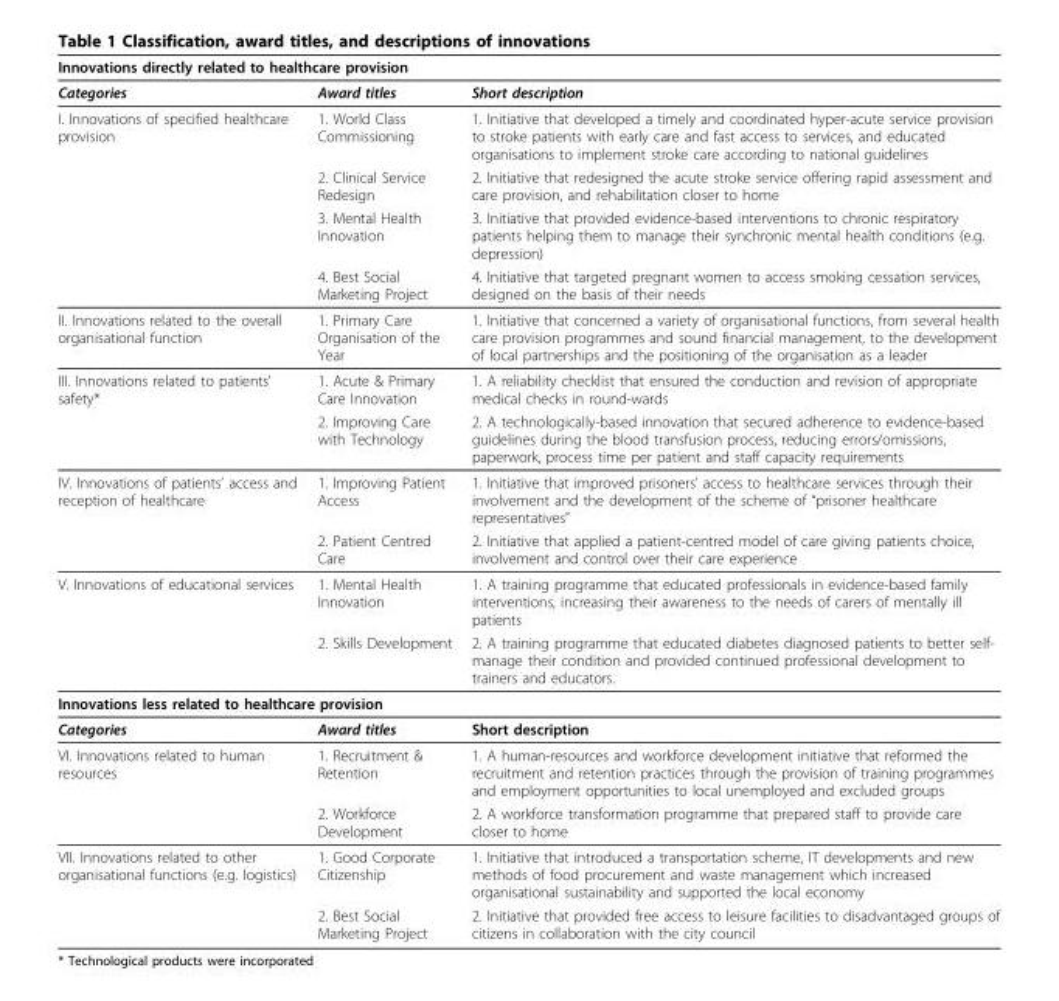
<table><thead><tr><td colspan="3">Innovations directly related to healthcare provision</td></tr><tr><td>Categories</td><td>Award titles</td><td>Short description</td></tr></thead><tbody><tr><td rowspan="4">I. Innovations of specified healthcare provision</td><td>1. World Class Commissioning</td><td>1. Initiative that developed a timely and coordinated hyper-acute service provision to stroke patients with early care and fast access to services, and educated organisations to implement stroke care according to national guidelines</td></tr><tr><td>2. Clinical Service Redesign</td><td>2. Initiative that redesigned the acute stroke service offering rapid assessment and care provision, and rehabilitation closer to home</td></tr><tr><td>3. Mental Health Innovation</td><td>3. Initiative that provided evidence-based interventions to chronic respiratory patients helping them to manage their synchronic mental health conditions (e.g. depression)</td></tr><tr><td>4. Best Social Marketing Project</td><td>4. Initiative that targeted pregnant women to access smoking cessation services, designed on the basis of their needs</td></tr><tr><td>II. Innovations related to the overall organisational function</td><td>1. Primary Care Organisation of the Year</td><td>1. Initiative that concerned a variety of organisational functions, from several health care provision programmes and sound financial management, to the development of local partnerships and the positioning of the organisation as a leader</td></tr><tr><td rowspan="2">III. Innovations related to patients’ safety*</td><td>1. Acute &amp; Primary Care Innovation</td><td>1. A reliability checklist that ensured the conduction and revision of appropriate medical checks in round-wards</td></tr><tr><td>2. Improving Care with Technology</td><td>2. A technologically-based innovation that secured adherence to evidence-based guidelines during the blood transfusion process, reducing errors/omissions, paperwork, process time per patient and staff capacity requirements</td></tr><tr><td rowspan="2">IV. Innovations of patients’ access and reception of healthcare</td><td>1. Improving Patient Access</td><td>1. Initiative that improved prisoners’ access to healthcare services through their involvement and the development of the scheme of “prisoner healthcare representatives”</td></tr><tr><td>2. Patient Centred Care</td><td>2. Initiative that applied a patient-centred model of care giving patients choice, involvement and control over their care experience</td></tr><tr><td rowspan="2">V. Innovations of educational services</td><td>1. Mental Health Innovation</td><td>1. A training programme that educated professionals in evidence-based family interventions, increasing their awareness to the needs of carers of mentally ill patients</td></tr><tr><td>2. Skills Development</td><td>2. A training programme that educated diabetes diagnosed patients to better self- manage their condition and provided continued professional development to trainers and educators.</td></tr><tr><td colspan="3">Innovations less related to healthcare provision</td></tr><tr><td>Categories</td><td>Award titles</td><td>Short description</td></tr><tr><td rowspan="2">VI. Innovations related to human resources</td><td>1. Recruitment &amp; Retention</td><td>1. A human-resources and workforce development initiative that reformed the recruitment and retention practices through the provision of training programmes and employment opportunities to local unemployed and excluded groups</td></tr><tr><td>2. Workforce Development</td><td>2. A workforce transformation programme that prepared staff to provide care closer to home</td></tr><tr><td rowspan="2">VII. Innovations related to other organisational functions (e.g. logistics)</td><td>1. Good Corporate Citizenship</td><td>1. Initiative that introduced a transportation scheme, IT developments and new methods of food procurement and waste management which increased organisational sustainability and supported the local economy</td></tr><tr><td>2. Best Social Marketing Project</td><td>2. Initiative that provided free access to leisure facilities to disadvantaged groups of citizens in collaboration with the city council</td></tr></tbody></table>